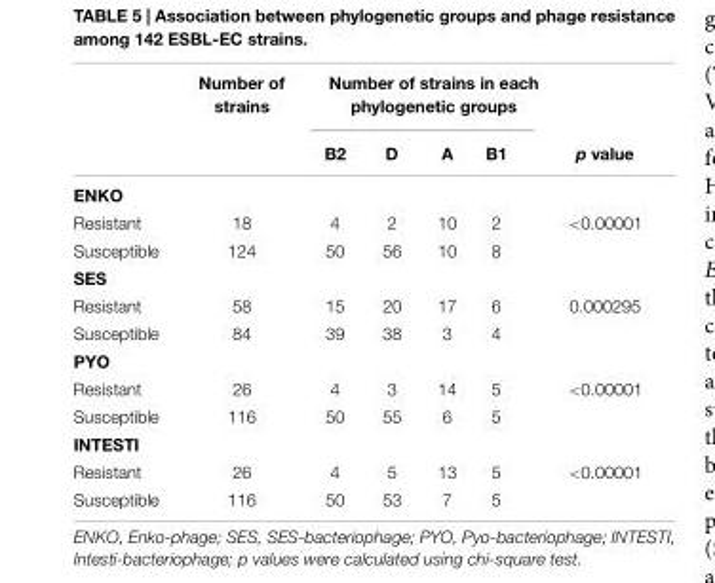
<table><thead><tr><td rowspan="2"></td><td rowspan="2">Number of strains</td><td colspan="4">Number of strains in each phylogenetic groups</td><td rowspan="2">p value</td></tr><tr><td>B2</td><td>D</td><td>A</td><td>B1</td></tr></thead><tbody><tr><td colspan="7">ENKO</td></tr><tr><td>Resistant</td><td>18</td><td>4</td><td>2</td><td>10</td><td>2</td><td>&lt;0.00001</td></tr><tr><td>Susceptible</td><td>124</td><td>50</td><td>56</td><td>10</td><td>8</td><td></td></tr><tr><td colspan="7">SES</td></tr><tr><td>Resistant</td><td>58</td><td>15</td><td>20</td><td>17</td><td>6</td><td>0.000295</td></tr><tr><td>Susceptible</td><td>84</td><td>39</td><td>38</td><td>3</td><td>4</td><td></td></tr><tr><td colspan="7">PYO</td></tr><tr><td>Resistant</td><td>26</td><td>4</td><td>3</td><td>14</td><td>5</td><td>&lt;0.00001</td></tr><tr><td>Susceptible</td><td>116</td><td>50</td><td>55</td><td>6</td><td>5</td><td></td></tr><tr><td colspan="7">INTESTI</td></tr><tr><td>Resistant</td><td>26</td><td>4</td><td>5</td><td>13</td><td>5</td><td>&lt;0.00001</td></tr><tr><td>Susceptible</td><td>116</td><td>50</td><td>53</td><td>7</td><td>5</td><td></td></tr></tbody></table>